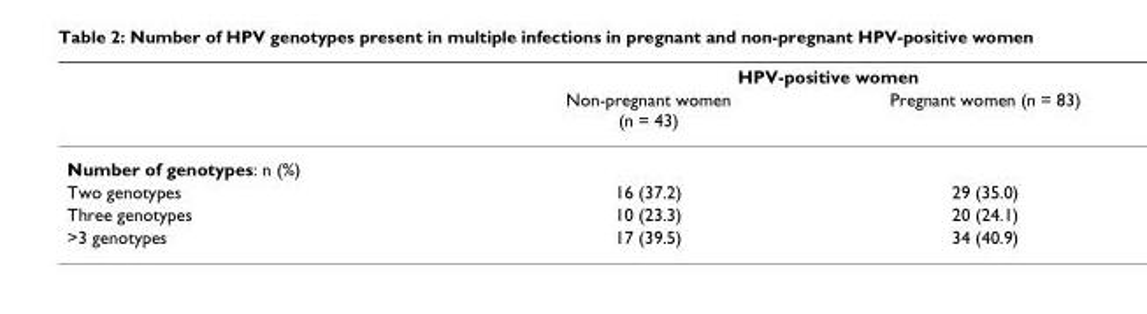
<table><thead><tr><td rowspan="2"></td><td colspan="2">HPV-positive women</td></tr><tr><td>Non-pregnant women (n = 43)</td><td>Pregnant women (n = 83)</td></tr></thead><tbody><tr><td colspan="3">Number of genotypes: n (%)</td></tr><tr><td>Two genotypes</td><td>16 (37.2)</td><td>29 (35.0)</td></tr><tr><td>Three genotypes</td><td>10 (23.3)</td><td>20 (24.1)</td></tr><tr><td>&gt;3 genotypes</td><td>17 (39.5)</td><td>34 (40.9)</td></tr></tbody></table>